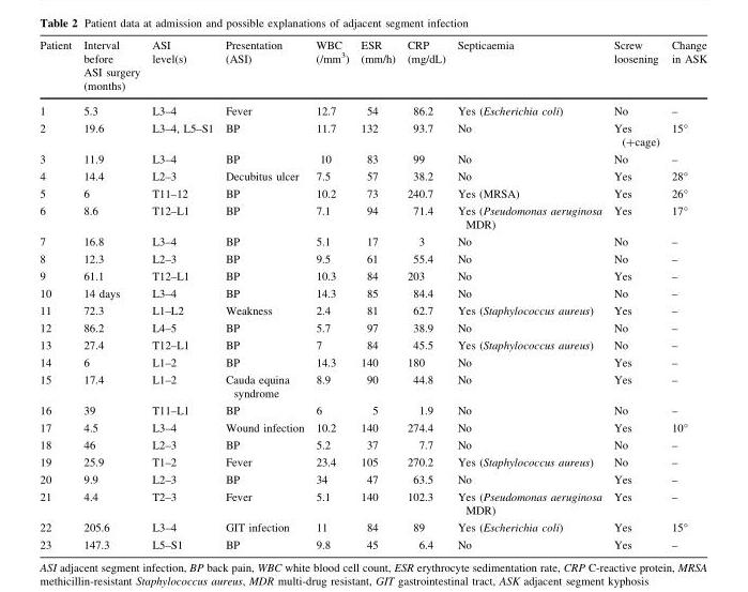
<table><thead><tr><td>Patient</td><td>Interval before ASI surgery (months)</td><td>ASI level(s)</td><td>Presentation (ASI)</td><td>WBC (/mm<sup>3</sup>)</td><td>ESR (mm/h)</td><td>CRP (mg/dL)</td><td>Septicaemia</td><td>Screw loosening</td><td>Change in ASK</td></tr></thead><tbody><tr><td>1</td><td>5.3</td><td>L3–4</td><td>Fever</td><td>12.7</td><td>54</td><td>86.2</td><td>Yes (Escherichia coli)</td><td>No</td><td>–</td></tr><tr><td>2</td><td>19.6</td><td>L3–4, L5–S1</td><td>BP</td><td>11.7</td><td>132</td><td>93.7</td><td>No</td><td>Yes (+cage)</td><td>15°</td></tr><tr><td>3</td><td>11.9</td><td>L3–4</td><td>BP</td><td>10</td><td>83</td><td>99</td><td>No</td><td>No</td><td>–</td></tr><tr><td>4</td><td>14.4</td><td>L2–3</td><td>Decubitus ulcer</td><td>7.5</td><td>57</td><td>38.2</td><td>No</td><td>Yes</td><td>28°</td></tr><tr><td>5</td><td>6</td><td>T11–12</td><td>BP</td><td>10.2</td><td>73</td><td>240.7</td><td>Yes (MRSA)</td><td>Yes</td><td>26°</td></tr><tr><td>6</td><td>8.6</td><td>T12–L1</td><td>BP</td><td>7.1</td><td>94</td><td>71.4</td><td>Yes (Pseudomonas aeruginosa MDR)</td><td>Yes</td><td>17°</td></tr><tr><td>7</td><td>16.8</td><td>L3–4</td><td>BP</td><td>5.1</td><td>17</td><td>3</td><td>No</td><td>No</td><td>–</td></tr><tr><td>8</td><td>12.3</td><td>L2–3</td><td>BP</td><td>9.5</td><td>61</td><td>55.4</td><td>No</td><td>No</td><td>–</td></tr><tr><td>9</td><td>61.1</td><td>T12–L1</td><td>BP</td><td>10.3</td><td>84</td><td>203</td><td>No</td><td>Yes</td><td>–</td></tr><tr><td>10</td><td>14 days</td><td>L3–4</td><td>BP</td><td>14.3</td><td>85</td><td>84.4</td><td>No</td><td>No</td><td>–</td></tr><tr><td>11</td><td>72.3</td><td>L1–L2</td><td>Weakness</td><td>2.4</td><td>81</td><td>62.7</td><td>Yes (Staphylococcus aureus)</td><td>Yes</td><td>–</td></tr><tr><td>12</td><td>86.2</td><td>L4–5</td><td>BP</td><td>5.7</td><td>97</td><td>38.9</td><td>No</td><td>No</td><td>–</td></tr><tr><td>13</td><td>27.4</td><td>T12–L1</td><td>BP</td><td>7</td><td>84</td><td>45.5</td><td>Yes (Staphylococcus aureus)</td><td>No</td><td>–</td></tr><tr><td>14</td><td>6</td><td>L1–2</td><td>BP</td><td>14.3</td><td>140</td><td>180</td><td>No</td><td>Yes</td><td>–</td></tr><tr><td>15</td><td>17.4</td><td>L1–2</td><td>Cauda equina syndrome</td><td>8.9</td><td>90</td><td>44.8</td><td>No</td><td>Yes</td><td>–</td></tr><tr><td>16</td><td>39</td><td>T11–L1</td><td>BP</td><td>6</td><td>5</td><td>1.9</td><td>No</td><td>No</td><td>–</td></tr><tr><td>17</td><td>4.5</td><td>L3–4</td><td>Wound infection</td><td>10.2</td><td>140</td><td>274.4</td><td>No</td><td>Yes</td><td>10°</td></tr><tr><td>18</td><td>46</td><td>L2–3</td><td>BP</td><td>5.2</td><td>37</td><td>7.7</td><td>No</td><td>No</td><td>–</td></tr><tr><td>19</td><td>25.9</td><td>T1–2</td><td>Fever</td><td>23.4</td><td>105</td><td>270.2</td><td>Yes (Staphylococcus aureus)</td><td>No</td><td>–</td></tr><tr><td>20</td><td>9.9</td><td>L2–3</td><td>BP</td><td>34</td><td>47</td><td>63.5</td><td>No</td><td>Yes</td><td>–</td></tr><tr><td>21</td><td>4.4</td><td>T2–3</td><td>Fever</td><td>5.1</td><td>140</td><td>102.3</td><td>Yes (Pseudomonas aeruginosa MDR)</td><td>Yes</td><td>–</td></tr><tr><td>22</td><td>205.6</td><td>L3–4</td><td>GIT infection</td><td>11</td><td>84</td><td>89</td><td>Yes (Escherichia coli)</td><td>Yes</td><td>15°</td></tr><tr><td>23</td><td>147.3</td><td>L5–S1</td><td>BP</td><td>9.8</td><td>45</td><td>6.4</td><td>No</td><td>Yes</td><td>–</td></tr></tbody></table>